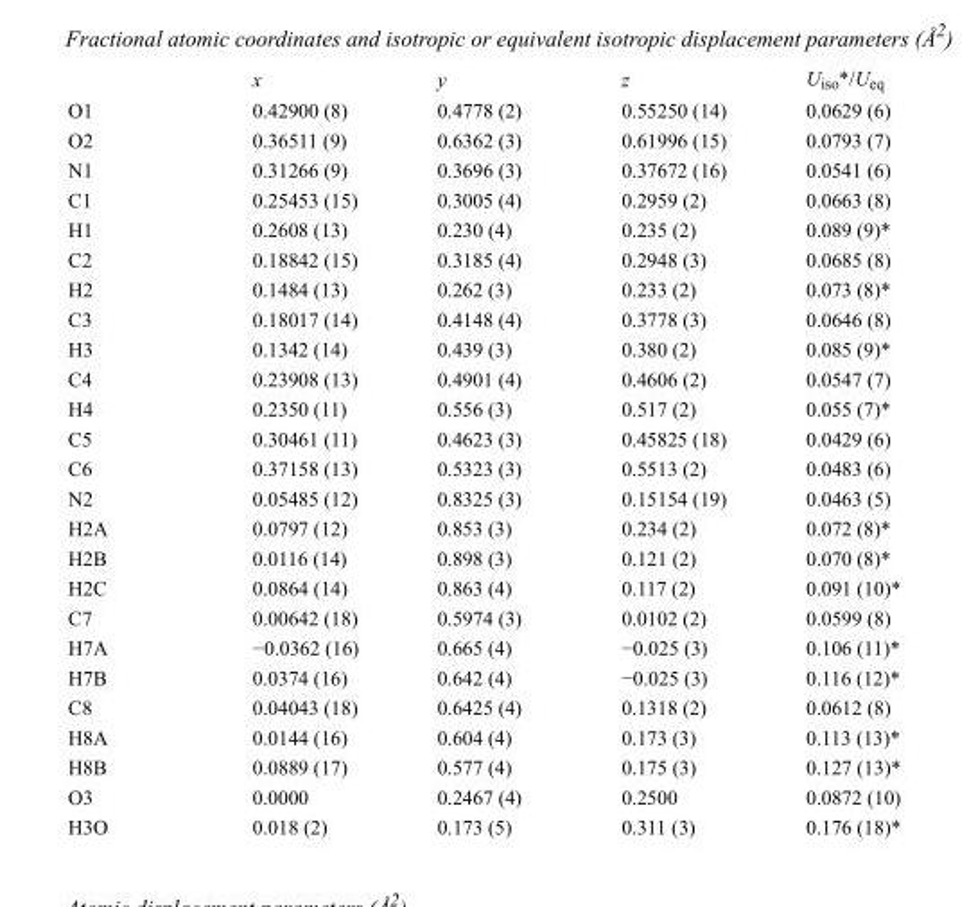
<table><thead><tr><td></td><td>x</td><td>y</td><td>z</td><td>U<sub>iso</sub>*/U<sub>eq</sub></td></tr></thead><tbody><tr><td>O1</td><td>0.42900 (8)</td><td>0.4778 (2)</td><td>0.55250 (14)</td><td>0.0629 (6)</td></tr><tr><td>O2</td><td>0.36511 (9)</td><td>0.6362 (3)</td><td>0.61996 (15)</td><td>0.0793 (7)</td></tr><tr><td>N1</td><td>0.31266 (9)</td><td>0.3696 (3)</td><td>0.37672 (16)</td><td>0.0541 (6)</td></tr><tr><td>C1</td><td>0.25453 (15)</td><td>0.3005 (4)</td><td>0.2959 (2)</td><td>0.0663 (8)</td></tr><tr><td>H1</td><td>0.2608 (13)</td><td>0.230 (4)</td><td>0.235 (2)</td><td>0.089 (9)*</td></tr><tr><td>C2</td><td>0.18842 (15)</td><td>0.3185 (4)</td><td>0.2948 (3)</td><td>0.0685 (8)</td></tr><tr><td>H2</td><td>0.1484 (13)</td><td>0.262 (3)</td><td>0.233 (2)</td><td>0.073 (8)*</td></tr><tr><td>C3</td><td>0.18017 (14)</td><td>0.4148 (4)</td><td>0.3778 (3)</td><td>0.0646 (8)</td></tr><tr><td>H3</td><td>0.1342 (14)</td><td>0.439 (3)</td><td>0.380 (2)</td><td>0.085 (9)*</td></tr><tr><td>C4</td><td>0.23908 (13)</td><td>0.4901 (4)</td><td>0.4606 (2)</td><td>0.0547 (7)</td></tr><tr><td>H4</td><td>0.2350 (11)</td><td>0.556 (3)</td><td>0.517 (2)</td><td>0.055 (7)*</td></tr><tr><td>C5</td><td>0.30461 (11)</td><td>0.4623 (3)</td><td>0.45825 (18)</td><td>0.0429 (6)</td></tr><tr><td>C6</td><td>0.37158 (13)</td><td>0.5323 (3)</td><td>0.5513 (2)</td><td>0.0483 (6)</td></tr><tr><td>N2</td><td>0.05485 (12)</td><td>0.8325 (3)</td><td>0.15154 (19)</td><td>0.0463 (5)</td></tr><tr><td>H2A</td><td>0.0797 (12)</td><td>0.853 (3)</td><td>0.234 (2)</td><td>0.072 (8)*</td></tr><tr><td>H2B</td><td>0.0116 (14)</td><td>0.898 (3)</td><td>0.121 (2)</td><td>0.070 (8)*</td></tr><tr><td>H2C</td><td>0.0864 (14)</td><td>0.863 (4)</td><td>0.117 (2)</td><td>0.091 (10)*</td></tr><tr><td>C7</td><td>0.00642 (18)</td><td>0.5974 (3)</td><td>0.0102 (2)</td><td>0.0599 (8)</td></tr><tr><td>H7A</td><td>−0.0362 (16)</td><td>0.665 (4)</td><td>−0.025 (3)</td><td>0.106 (11)*</td></tr><tr><td>H7B</td><td>0.0374 (16)</td><td>0.642 (4)</td><td>−0.025 (3)</td><td>0.116 (12)*</td></tr><tr><td>C8</td><td>0.04043 (18)</td><td>0.6425 (4)</td><td>0.1318 (2)</td><td>0.0612 (8)</td></tr><tr><td>H8A</td><td>0.0144 (16)</td><td>0.604 (4)</td><td>0.173 (3)</td><td>0.113 (13)*</td></tr><tr><td>H8B</td><td>0.0889 (17)</td><td>0.577 (4)</td><td>0.175 (3)</td><td>0.127 (13)*</td></tr><tr><td>O3</td><td>0.0000</td><td>0.2467 (4)</td><td>0.2500</td><td>0.0872 (10)</td></tr><tr><td>H3O</td><td>0.018 (2)</td><td>0.173 (5)</td><td>0.311 (3)</td><td>0.176 (18)*</td></tr></tbody></table>